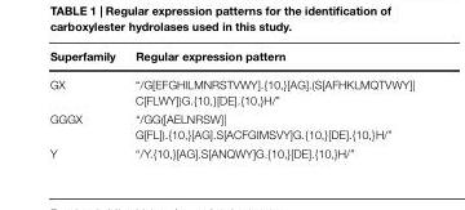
<table><thead><tr><td>Superfamily</td><td>Regular expression pattern</td></tr></thead><tbody><tr><td>GX</td><td>“/G[EFGHILMNRSTVWY].{10,}[AG].(S[AFHKLMQTVWY]| C[FLWY])G.{10,}[DE].{10,}H/”</td></tr><tr><td>GGGX</td><td>“/GG([AELNRSW]| G[FL]).{10,}[AG].S[ACFGIMSVY]G.{10,}[DE].{10,}H/”</td></tr><tr><td>Y</td><td>“/Y.{10,}[AG].S[ANQWY]G.{10,}[DE].{10,}H/”</td></tr></tbody></table>